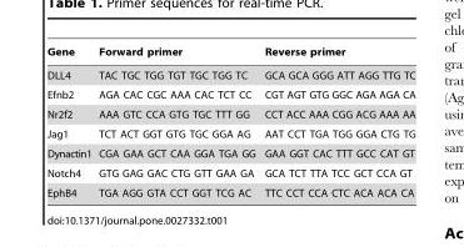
<table><thead><tr><td>Gene</td><td>Forward primer</td><td>Reverse primer</td></tr></thead><tbody><tr><td>DLL4</td><td>TAC TGC TGG TGT TGC TGG TC</td><td>GCA GCA GGG ATT AGG TTG TC</td></tr><tr><td>Efnb2</td><td>AGA CAC CGC AAA CAC TCT CC</td><td>CGT AGT GTG GGC AGA AGA CA</td></tr><tr><td>Nr2f2</td><td>AAA GTC CCA GTG TGC TTT GG</td><td>CCT ACC AAA CGG ACG AAA AA</td></tr><tr><td>Jag1</td><td>TCT ACT GGT GTG TGC GGA AG</td><td>AAT CCT TGA TGG GGA CTG TG</td></tr><tr><td>Dynactin1</td><td>CGA GAA GCT CAA GGA TGA GG</td><td>GAA GGT CAC TTT GCC CAT GT</td></tr><tr><td>Notch4</td><td>GTG GAG GAC CTG GTT GAA GA</td><td>GCA TCT TTA TCC GCT CCA GT</td></tr><tr><td>EphB4</td><td>TGA AGG GTA CCT GGT TCG AC</td><td>TTC CCT CCA CTC ACA ACA CA</td></tr></tbody></table>